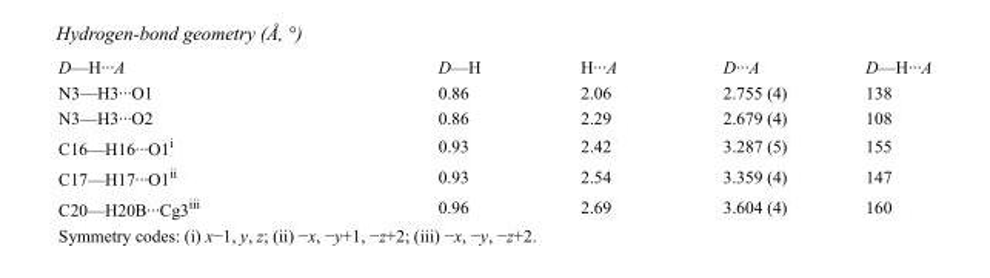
<table><tbody><tr><td>D—H···A</td><td>D—H</td><td>H···A</td><td>D···A</td><td>D—H···A</td></tr><tr><td>N3—H3···O1</td><td>0.86</td><td>2.06</td><td>2.755 (4)</td><td>138</td></tr><tr><td>N3—H3···O2</td><td>0.86</td><td>2.29</td><td>2.679 (4)</td><td>108</td></tr><tr><td>C16—H16···O1<sup>i</sup></td><td>0.93</td><td>2.42</td><td>3.287 (5)</td><td>155</td></tr><tr><td>C17—H17···O1<sup>ii</sup></td><td>0.93</td><td>2.54</td><td>3.359 (4)</td><td>147</td></tr><tr><td>C20—H20B···Cg3<sup>iii</sup></td><td>0.96</td><td>2.69</td><td>3.604 (4)</td><td>160</td></tr></tbody></table>